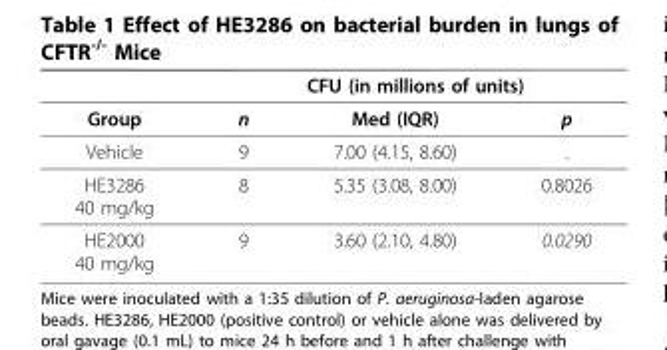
<table><thead><tr><td rowspan="2">Group</td><td colspan="3">CFU (in millions of units)</td></tr><tr><td>n</td><td>Med (IQR)</td><td>p</td></tr></thead><tbody><tr><td>Vehicle</td><td>9</td><td>7.00 (4.15, 8.60)</td><td>.</td></tr><tr><td>HE3286 40 mg/kg</td><td>8</td><td>5.35 (3.08, 8.00)</td><td>0.8026</td></tr><tr><td>HE2000 40 mg/kg</td><td>9</td><td>3.60 (2.10, 4.80)</td><td>0.0290</td></tr></tbody></table>